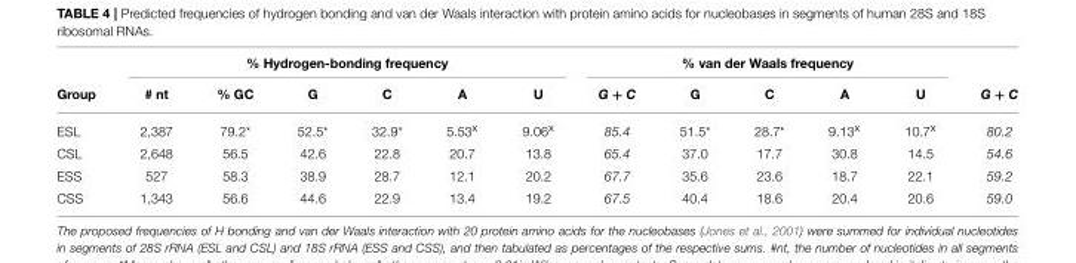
<table><thead><tr><td rowspan="2">Group</td><td colspan="6">% Hydrogen-bonding frequency</td><td colspan="5">% van der Waals frequency</td><td rowspan="2">G + C</td></tr><tr><td># nt</td><td>% GC</td><td>G</td><td>C</td><td>A</td><td>U</td><td>G + C</td><td>G</td><td>C</td><td>A</td><td>U</td></tr></thead><tbody><tr><td>ESL</td><td>2,387</td><td>79.2*</td><td>52.5*</td><td>32.9*</td><td>5.53<sup>x</sup></td><td>9.06<sup>x</sup></td><td>85.4</td><td>51.5*</td><td>28.7*</td><td>9.13<sup>x</sup></td><td>10.7<sup>x</sup></td><td>80.2</td></tr><tr><td>CSL</td><td>2,648</td><td>56.5</td><td>42.6</td><td>22.8</td><td>20.7</td><td>13.8</td><td>65.4</td><td>37.0</td><td>17.7</td><td>30.8</td><td>14.5</td><td>54.6</td></tr><tr><td>ESS</td><td>527</td><td>58.3</td><td>38.9</td><td>28.7</td><td>12.1</td><td>20.2</td><td>67.7</td><td>35.6</td><td>23.6</td><td>18.7</td><td>22.1</td><td>59.2</td></tr><tr><td>CSS</td><td>1,343</td><td>56.6</td><td>44.6</td><td>22.9</td><td>13.4</td><td>19.2</td><td>67.5</td><td>40.4</td><td>18.6</td><td>20.4</td><td>20.6</td><td>59.0</td></tr></tbody></table>